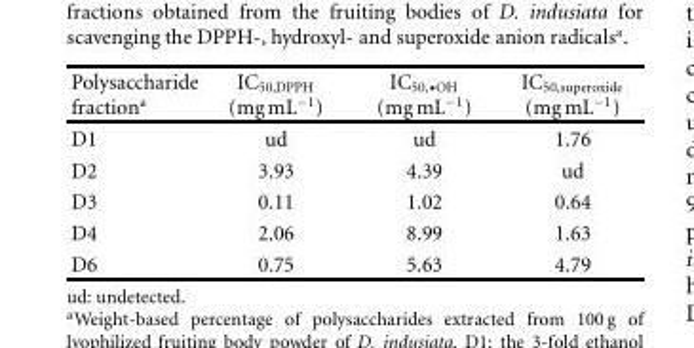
<table><thead><tr><td>Polysaccharide fraction<sup>a</sup></td><td>IC<sub>50,DPPH</sub> (mg mL<sup>−1</sup>)</td><td>IC<sub>50,•OH</sub> (mg mL<sup>−1</sup>)</td><td>IC<sub>50,superoxide</sub> (mg mL<sup>−1</sup>)</td></tr></thead><tbody><tr><td>D1</td><td>ud</td><td>ud</td><td>1.76</td></tr><tr><td>D2</td><td>3.93</td><td>4.39</td><td>ud</td></tr><tr><td>D3</td><td>0.11</td><td>1.02</td><td>0.64</td></tr><tr><td>D4</td><td>2.06</td><td>8.99</td><td>1.63</td></tr><tr><td>D6</td><td>0.75</td><td>5.63</td><td>4.79</td></tr></tbody></table>